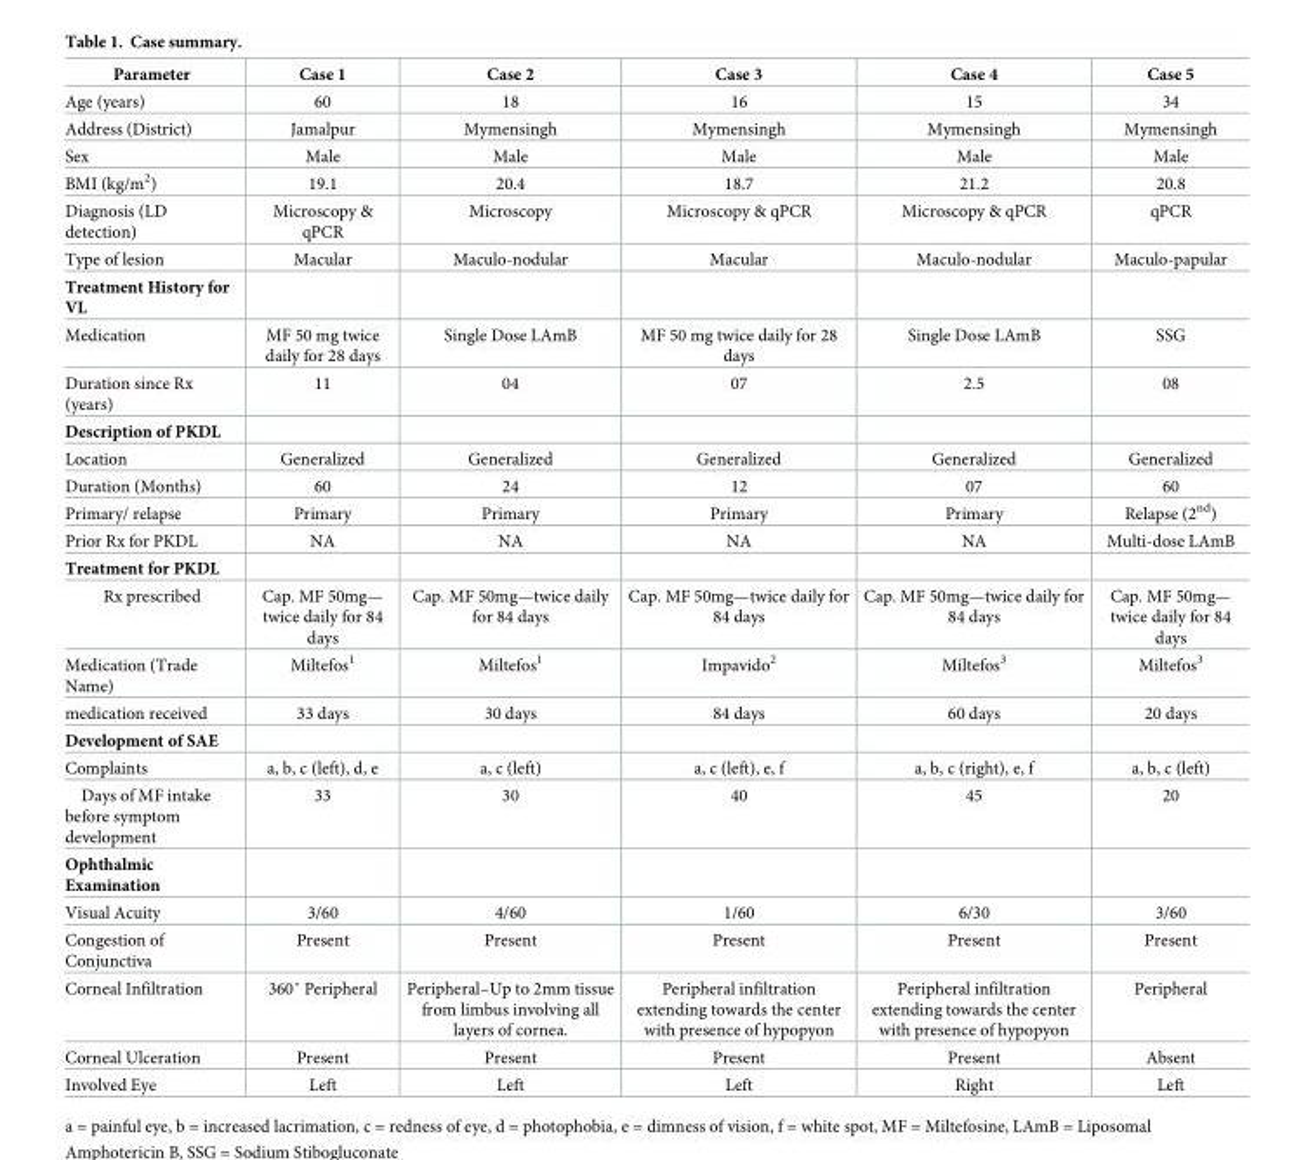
<table><thead><tr><td>Parameter</td><td>Case 1</td><td>Case 2</td><td>Case 3</td><td>Case 4</td><td>Case 5</td></tr></thead><tbody><tr><td>Age (years)</td><td>60</td><td>18</td><td>16</td><td>15</td><td>34</td></tr><tr><td>Address (District)</td><td>Jamalpur</td><td>Mymensingh</td><td>Mymensingh</td><td>Mymensingh</td><td>Mymensingh</td></tr><tr><td>Sex</td><td>Male</td><td>Male</td><td>Male</td><td>Male</td><td>Male</td></tr><tr><td>BMI (kg/m<sup>2</sup>)</td><td>19.1</td><td>20.4</td><td>18.7</td><td>21.2</td><td>20.8</td></tr><tr><td>Diagnosis (LD detection)</td><td>Microscopy &amp; qPCR</td><td>Microscopy</td><td>Microscopy &amp; qPCR</td><td>Microscopy &amp; qPCR</td><td>qPCR</td></tr><tr><td>Type of lesion</td><td>Macular</td><td>Maculo-nodular</td><td>Macular</td><td>Maculo-nodular</td><td>Maculo-papular</td></tr><tr><td colspan="6">Treatment History for VL</td></tr><tr><td>Medication</td><td>MF 50 mg twice daily for 28 days</td><td>Single Dose LAmB</td><td>MF 50 mg twice daily for 28 days</td><td>Single Dose LAmB</td><td>SSG</td></tr><tr><td>Duration since Rx (years)</td><td>11</td><td>04</td><td>07</td><td>2.5</td><td>08</td></tr><tr><td colspan="6">Description of PKDL</td></tr><tr><td>Location</td><td>Generalized</td><td>Generalized</td><td>Generalized</td><td>Generalized</td><td>Generalized</td></tr><tr><td>Duration (Months)</td><td>60</td><td>24</td><td>12</td><td>07</td><td>60</td></tr><tr><td>Primary/ relapse</td><td>Primary</td><td>Primary</td><td>Primary</td><td>Primary</td><td>Relapse (2<sup>nd</sup>)</td></tr><tr><td>Prior Rx for PKDL</td><td>NA</td><td>NA</td><td>NA</td><td>NA</td><td>Multi-dose LAmB</td></tr><tr><td colspan="6">Treatment for PKDL</td></tr><tr><td>Rx prescribed</td><td>Cap. MF 50mg— twice daily for 84 days</td><td>Cap. MF 50mg—twice daily for 84 days</td><td>Cap. MF 50mg—twice daily for 84 days</td><td>Cap. MF 50mg—twice daily for 84 days</td><td>Cap. MF 50mg— twice daily for 84 days</td></tr><tr><td>Medication (Trade Name)</td><td>Miltefos<sup>1</sup></td><td>Miltefos<sup>1</sup></td><td>Impavido<sup>2</sup></td><td>Miltefos<sup>3</sup></td><td>Miltefos<sup>3</sup></td></tr><tr><td>medication received</td><td>33 days</td><td>30 days</td><td>84 days</td><td>60 days</td><td>20 days</td></tr><tr><td colspan="6">Development of SAE</td></tr><tr><td>Complaints</td><td>a, b, c (left), d, e</td><td>a, c (left)</td><td>a, c (left), e, f</td><td>a, b, c (right), e, f</td><td>a, b, c (left)</td></tr><tr><td>Days of MF intake before symptom development</td><td>33</td><td>30</td><td>40</td><td>45</td><td>20</td></tr><tr><td colspan="6">Ophthalmic Examination</td></tr><tr><td>Visual Acuity</td><td>3/60</td><td>4/60</td><td>1/60</td><td>6/30</td><td>3/60</td></tr><tr><td>Congestion of Conjunctiva</td><td>Present</td><td>Present</td><td>Present</td><td>Present</td><td>Present</td></tr><tr><td>Corneal Infiltration</td><td>360˚ Peripheral</td><td>Peripheral–Up to 2mm tissue from limbus involving all layers of cornea.</td><td>Peripheral infiltration extending towards the center with presence of hypopyon</td><td>Peripheral infiltration extending towards the center with presence of hypopyon</td><td>Peripheral</td></tr><tr><td>Corneal Ulceration</td><td>Present</td><td>Present</td><td>Present</td><td>Present</td><td>Absent</td></tr><tr><td>Involved Eye</td><td>Left</td><td>Left</td><td>Left</td><td>Right</td><td>Left</td></tr></tbody></table>